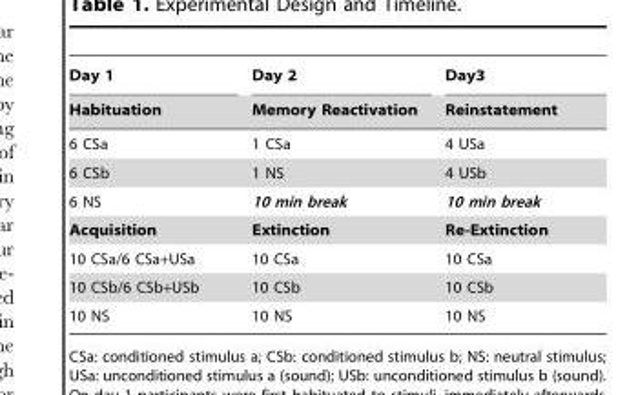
<table><thead><tr><td rowspan="2">Day 1 Habituation</td><td rowspan="2">Day 2 Memory Reactivation</td><td rowspan="2">Day3 Reinstatement</td></tr><tr></tr></thead><tbody><tr><td>6 CSa</td><td>1 CSa</td><td>4 USa</td></tr><tr><td>6 CSb</td><td>1 NS</td><td>4 USb</td></tr><tr><td>6 NS</td><td>10 min break</td><td>10 min break</td></tr><tr><td>Acquisition</td><td>Extinction</td><td>Re-Extinction</td></tr><tr><td>10 CSa/6 CSa+USa</td><td>10 CSa</td><td>10 CSa</td></tr><tr><td>10 CSb/6 CSb+USb</td><td>10 CSb</td><td>10 CSb</td></tr><tr><td>10 NS</td><td>10 NS</td><td>10 NS</td></tr></tbody></table>